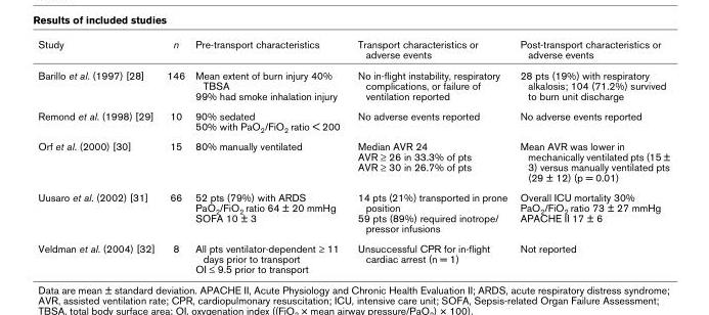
<table><thead><tr><td>Study</td><td>n</td><td>Pre-transport characteristics</td><td>Transport characteristics or adverse events</td><td>Post-transport characteristics or adverse events</td></tr></thead><tbody><tr><td>Barillo et al. (1997) [28]</td><td>146</td><td>Mean extent of burn injury 40% TBSA 99% had smoke inhalation injury</td><td>No in-flight instability, respiratory complications, or failure of ventilation reported</td><td>28 pts (19%) with respiratory alkalosis; 104 (71.2%) survived to burn unit discharge</td></tr><tr><td>Remond et al. (1998) [29]</td><td>10</td><td>90% sedated 50% with PaO2/FiO2 ratio &lt; 200</td><td>No adverse events reported</td><td>No adverse events reported</td></tr><tr><td>Orf et al. (2000) [30]</td><td>15</td><td>80% manually ventilated</td><td>Median AVR 24 AVR ≥ 26 in 33.3% of pts AVR ≥ 30 in 26.7% of pts</td><td>Mean AVR was lower in mechanically ventilated pts (15 ± 3) versus manually ventilated pts (29 ± 12) (p = 0.01)</td></tr><tr><td>Uusaro et al. (2002) [31]</td><td>66</td><td>52 pts (79%) with ARDS PaO2/FiO2 ratio 64 ± 20 mmHg SOFA 10 ± 3</td><td>14 pts (21%) transported in prone position 59 pts (89%) required inotrope/ pressor infusions</td><td>Overall ICU mortality 30% PaO2/FiO2 ratio 73 ± 27 mmHg APACHE II 17 ± 6</td></tr><tr><td>Veldman et al. (2004) [32]</td><td>8</td><td>All pts ventilator-dependent ≥ 11 days prior to transport OI ≤ 9.5 prior to transport</td><td>Unsuccessful CPR for in-flight cardiac arrest (n = 1)</td><td>Not reported</td></tr></tbody></table>